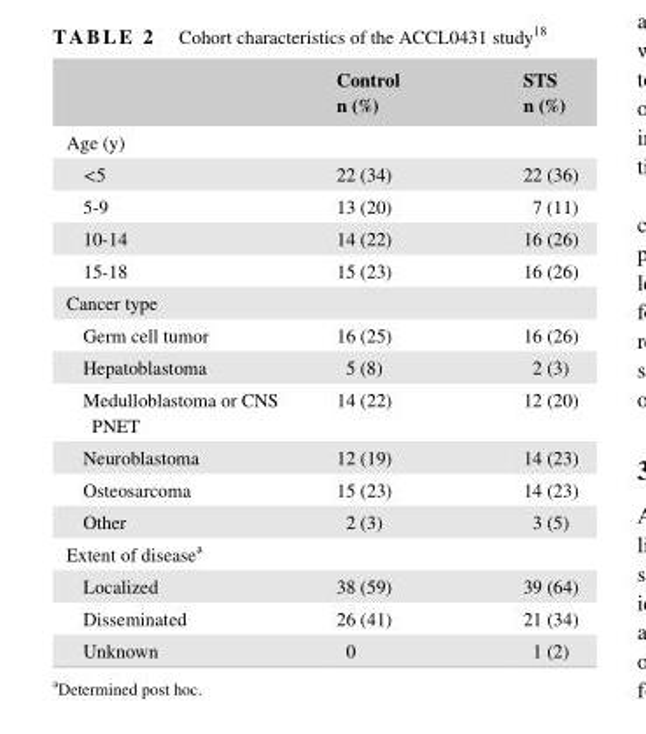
<table><thead><tr><td></td><td>Control n (%)</td><td>STS n (%)</td></tr></thead><tbody><tr><td colspan="3">Age (y)</td></tr><tr><td>&lt;5</td><td>22 (34)</td><td>22 (36)</td></tr><tr><td>5- 9</td><td>13 (20)</td><td>7 (11)</td></tr><tr><td>10- 14</td><td>14 (22)</td><td>16 (26)</td></tr><tr><td>15- 18</td><td>15 (23)</td><td>16 (26)</td></tr><tr><td colspan="3">Cancer type</td></tr><tr><td>Germ cell tumor</td><td>16 (25)</td><td>16 (26)</td></tr><tr><td>Hepatoblastoma</td><td>5 (8)</td><td>2 (3)</td></tr><tr><td>Medulloblastoma or CNS PNET</td><td>14 (22)</td><td>12 (20)</td></tr><tr><td>Neuroblastoma</td><td>12 (19)</td><td>14 (23)</td></tr><tr><td>Osteosarcoma</td><td>15 (23)</td><td>14 (23)</td></tr><tr><td>Other</td><td>2 (3)</td><td>3 (5)</td></tr><tr><td colspan="3">Extent of disease<sup>a</sup></td></tr><tr><td>Localized</td><td>38 (59)</td><td>39 (64)</td></tr><tr><td>Disseminated</td><td>26 (41)</td><td>21 (34)</td></tr><tr><td>Unknown</td><td>0</td><td>1 (2)</td></tr></tbody></table>